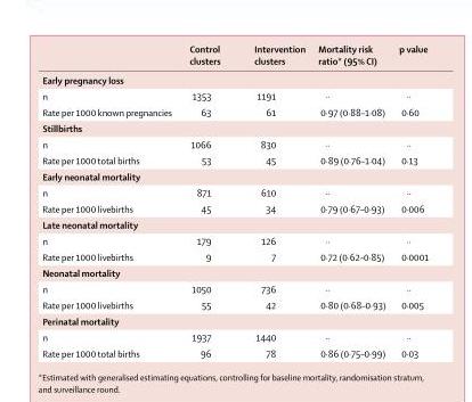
<table><thead><tr><td></td><td>Control clusters</td><td>Intervention clusters</td><td>Mortality risk ratio* (95% CI)</td><td>p value</td></tr></thead><tbody><tr><td colspan="5">Early pregnancy loss</td></tr><tr><td>n</td><td>1353</td><td>1191</td><td>··</td><td>··</td></tr><tr><td>Rate per 1000 known pregnancies</td><td>63</td><td>61</td><td>0·97 (0·88–1·08)</td><td>0·60</td></tr><tr><td colspan="5">Stillbirths</td></tr><tr><td>n</td><td>1066</td><td>830</td><td>··</td><td>··</td></tr><tr><td>Rate per 1000 total births</td><td>53</td><td>45</td><td>0·89 (0·76–1·04)</td><td>0·13</td></tr><tr><td colspan="5">Early neonatal mortality</td></tr><tr><td>n</td><td>871</td><td>610</td><td>··</td><td>··</td></tr><tr><td>Rate per 1000 livebirths</td><td>45</td><td>34</td><td>0·79 (0·67–0·93)</td><td>0·006</td></tr><tr><td colspan="5">Late neonatal mortality</td></tr><tr><td>n</td><td>179</td><td>126</td><td>··</td><td>··</td></tr><tr><td>Rate per 1000 livebirths</td><td>9</td><td>7</td><td>0·72 (0·62–0·85)</td><td>0·0001</td></tr><tr><td colspan="5">Neonatal mortality</td></tr><tr><td>n</td><td>1050</td><td>736</td><td>··</td><td>··</td></tr><tr><td>Rate per 1000 livebirths</td><td>55</td><td>42</td><td>0·80 (0·68–0·93)</td><td>0·005</td></tr><tr><td colspan="5">Perinatal mortality</td></tr><tr><td>n</td><td>1937</td><td>1440</td><td>··</td><td>··</td></tr><tr><td>Rate per 1000 total births</td><td>96</td><td>78</td><td>0·86 (0·75–0·99)</td><td>0·03</td></tr></tbody></table>